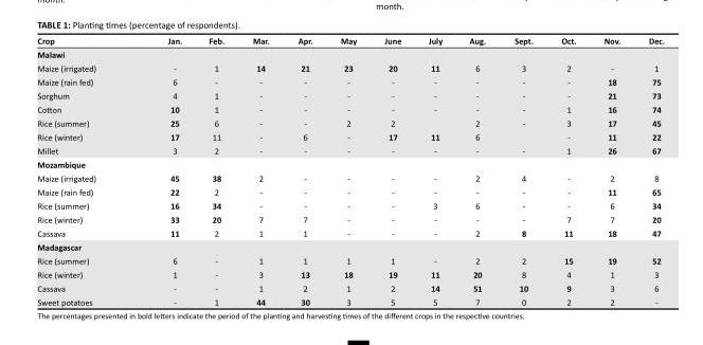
<table><thead><tr><td>Crop</td><td>Jan.</td><td>Feb.</td><td>Mar.</td><td>Apr.</td><td>May</td><td>June</td><td>July</td><td>Aug.</td><td>Sept.</td><td>Oct.</td><td>Nov.</td><td>Dec.</td></tr></thead><tbody><tr><td colspan="13">Malawi</td></tr><tr><td>Maize (irrigated)</td><td>-</td><td>1</td><td>14</td><td>21</td><td>23</td><td>20</td><td>11</td><td>6</td><td>3</td><td>2</td><td>-</td><td>1</td></tr><tr><td>Maize (rain fed)</td><td>6</td><td>-</td><td>-</td><td>-</td><td>-</td><td>-</td><td>-</td><td>-</td><td>-</td><td>-</td><td>18</td><td>75</td></tr><tr><td>Sorghum</td><td>4</td><td>1</td><td>-</td><td>-</td><td>-</td><td>-</td><td>-</td><td>-</td><td>-</td><td>-</td><td>21</td><td>73</td></tr><tr><td>Cotton</td><td>10</td><td>1</td><td>-</td><td>-</td><td>-</td><td>-</td><td>-</td><td>-</td><td>-</td><td>1</td><td>16</td><td>74</td></tr><tr><td>Rice (summer)</td><td>25</td><td>6</td><td>-</td><td>-</td><td>2</td><td>2</td><td></td><td>2</td><td>-</td><td>3</td><td>17</td><td>45</td></tr><tr><td>Rice (winter)</td><td>17</td><td>11</td><td>-</td><td>6</td><td>-</td><td>17</td><td>11</td><td>6</td><td></td><td>-</td><td>11</td><td>22</td></tr><tr><td>Millet</td><td>3</td><td>2</td><td>-</td><td>-</td><td>-</td><td>-</td><td>-</td><td>-</td><td>-</td><td>1</td><td>26</td><td>67</td></tr><tr><td colspan="13">Mozambique</td></tr><tr><td>Maize (irrigated)</td><td>45</td><td>38</td><td>2</td><td>-</td><td>-</td><td>-</td><td>-</td><td>2</td><td>4</td><td>-</td><td>2</td><td>8</td></tr><tr><td>Maize (rain fed)</td><td>22</td><td>2</td><td>-</td><td>-</td><td>-</td><td>-</td><td>-</td><td>-</td><td>-</td><td>-</td><td>11</td><td>65</td></tr><tr><td>Rice (summer)</td><td>16</td><td>34</td><td>-</td><td>-</td><td>-</td><td>-</td><td>3</td><td>6</td><td>-</td><td>-</td><td>6</td><td>34</td></tr><tr><td>Rice (winter)</td><td>33</td><td>20</td><td>7</td><td>7</td><td>-</td><td>-</td><td>-</td><td>-</td><td>-</td><td>7</td><td>7</td><td>20</td></tr><tr><td>Cassava</td><td>11</td><td>2</td><td>1</td><td>1</td><td>-</td><td>-</td><td>-</td><td>2</td><td>8</td><td>11</td><td>18</td><td>47</td></tr><tr><td colspan="13">Madagascar</td></tr><tr><td>Rice (summer)</td><td>6</td><td>-</td><td>1</td><td>1</td><td>1</td><td>1</td><td>-</td><td>2</td><td>2</td><td>15</td><td>19</td><td>52</td></tr><tr><td>Rice (winter)</td><td>1</td><td>-</td><td>3</td><td>13</td><td>18</td><td>19</td><td>11</td><td>20</td><td>8</td><td>4</td><td>1</td><td>3</td></tr><tr><td>Cassava</td><td>-</td><td>-</td><td>1</td><td>2</td><td>1</td><td>2</td><td>14</td><td>51</td><td>10</td><td>9</td><td>3</td><td>6</td></tr><tr><td>Sweet potatoes</td><td>-</td><td>1</td><td>44</td><td>30</td><td>3</td><td>5</td><td>5</td><td>7</td><td>0</td><td>2</td><td>2</td><td>-</td></tr></tbody></table>